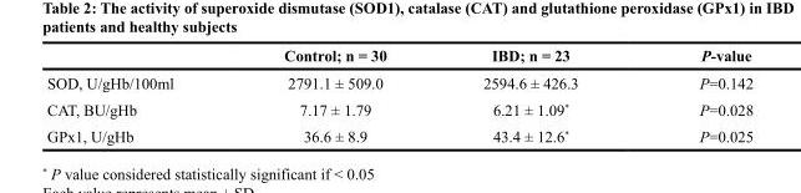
<table><thead><tr><td></td><td>Control; n = 30</td><td>IBD; n = 23</td><td>P-value</td></tr></thead><tbody><tr><td>SOD, U/gHb/100ml</td><td>2791.1 ± 509.0</td><td>2594.6 ± 426.3</td><td>P=0.142</td></tr><tr><td>CAT, BU/gHb</td><td>7.17 ± 1.79</td><td>6.21 ± 1.09*</td><td>P=0.028</td></tr><tr><td>GPx1, U/gHb</td><td>36.6 ± 8.9</td><td>43.4 ± 12.6*</td><td>P=0.025</td></tr></tbody></table>